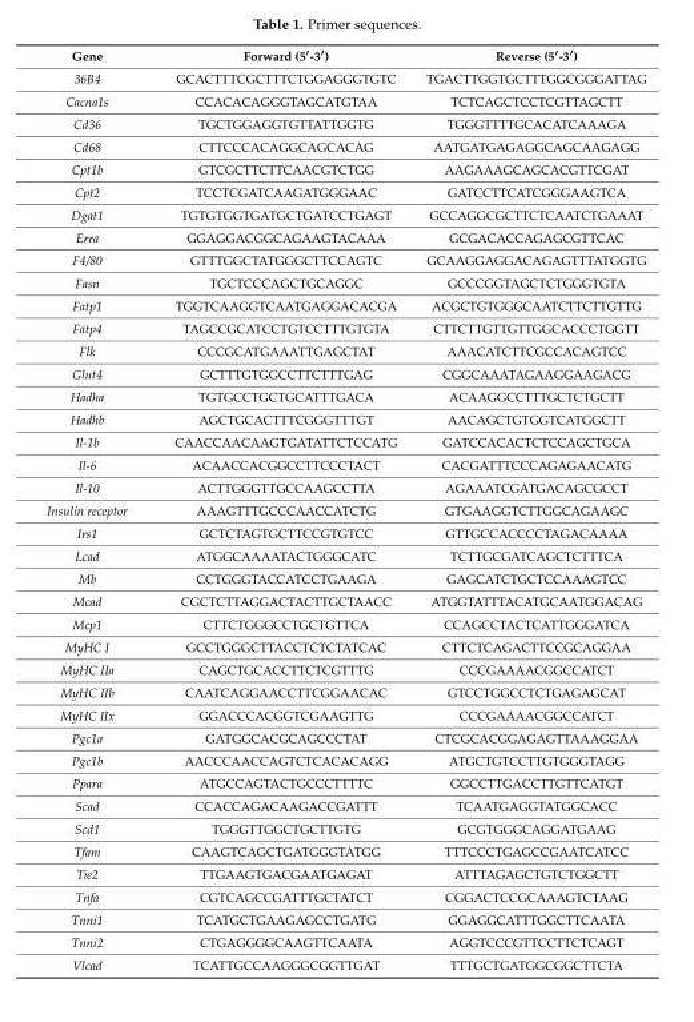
<table><thead><tr><td>Gene</td><td>Forward (5′-3′)</td><td>Reverse (5′-3′)</td></tr></thead><tbody><tr><td>36B4</td><td>GCACTTTCGCTTTCTGGAGGGTGTC</td><td>TGACTTGGTGCTTTGGCGGGATTAG</td></tr><tr><td>Cacna1s</td><td>CCACACAGGGTAGCATGTAA</td><td>TCTCAGCTCCTCGTTAGCTT</td></tr><tr><td>Cd36</td><td>TGCTGGAGGTGTTATTGGTG</td><td>TGGGTTTTGCACATCAAAGA</td></tr><tr><td>Cd68</td><td>CTTCCCACAGGCAGCACAG</td><td>AATGATGAGAGGCAGCAAGAGG</td></tr><tr><td>Cpt1b</td><td>GTCGCTTCTTCAACGTCTGG</td><td>AAGAAAGCAGCACGTTCGAT</td></tr><tr><td>Cpt2</td><td>TCCTCGATCAAGATGGGAAC</td><td>GATCCTTCATCGGGAAGTCA</td></tr><tr><td>Dgat1</td><td>TGTGTGGTGATGCTGATCCTGAGT</td><td>GCCAGGCGCTTCTCAATCTGAAAT</td></tr><tr><td>Erra</td><td>GGAGGACGGCAGAAGTACAAA</td><td>GCGACACCAGAGCGTTCAC</td></tr><tr><td>F4/80</td><td>GTTTGGCTATGGGCTTCCAGTC</td><td>GCAAGGAGGACAGAGTTTATGGTG</td></tr><tr><td>Fasn</td><td>TGCTCCCAGCTGCAGGC</td><td>GCCCGGTAGCTCTGGGTGTA</td></tr><tr><td>Fatp1</td><td>TGGTCAAGGTCAATGAGGACACGA</td><td>ACGCTGTGGGCAATCTTCTTGTTG</td></tr><tr><td>Fatp4</td><td>TAGCCGCATCCTGTCCTTTGTGTA</td><td>CTTCTTGTTGTTGGCACCCTGGTT</td></tr><tr><td>Flk</td><td>CCCGCATGAAATTGAGCTAT</td><td>AAACATCTTCGCCACAGTCC</td></tr><tr><td>Glut4</td><td>GCTTTGTGGCCTTCTTTGAG</td><td>CGGCAAATAGAAGGAAGACG</td></tr><tr><td>Hadha</td><td>TGTGCCTGCTGCATTTGACA</td><td>ACAAGGCCTTTGCTCTGCTT</td></tr><tr><td>Hadhb</td><td>AGCTGCACTTTCGGGTTTGT</td><td>AACAGCTGTGGTCATGGCTT</td></tr><tr><td>Il-1b</td><td>CAACCAACAAGTGATATTCTCCATG</td><td>GATCCACACTCTCCAGCTGCA</td></tr><tr><td>Il-6</td><td>ACAACCACGGCCTTCCCTACT</td><td>CACGATTTCCCAGAGAACATG</td></tr><tr><td>Il-10</td><td>ACTTGGGTTGCCAAGCCTTA</td><td>AGAAATCGATGACAGCGCCT</td></tr><tr><td>Insulin receptor</td><td>AAAGTTTGCCCAACCATCTG</td><td>GTGAAGGTCTTGGCAGAAGC</td></tr><tr><td>Irs1</td><td>GCTCTAGTGCTTCCGTGTCC</td><td>GTTGCCACCCCTAGACAAAA</td></tr><tr><td>Lcad</td><td>ATGGCAAAATACTGGGCATC</td><td>TCTTGCGATCAGCTCTTTCA</td></tr><tr><td>Mb</td><td>CCTGGGTACCATCCTGAAGA</td><td>GAGCATCTGCTCCAAAGTCC</td></tr><tr><td>Mcad</td><td>CGCTCTTAGGACTACTTGCTAACC</td><td>ATGGTATTTACATGCAATGGACAG</td></tr><tr><td>Mcp1</td><td>CTTCTGGGCCTGCTGTTCA</td><td>CCAGCCTACTCATTGGGATCA</td></tr><tr><td>MyHC I</td><td>GCCTGGGCTTACCTCTCTATCAC</td><td>CTTCTCAGACTTCCGCAGGAA</td></tr><tr><td>MyHC IIa</td><td>CAGCTGCACCTTCTCGTTTG</td><td>CCCGAAAACGGCCATCT</td></tr><tr><td>MyHC IIb</td><td>CAATCAGGAACCTTCGGAACAC</td><td>GTCCTGGCCTCTGAGAGCAT</td></tr><tr><td>MyHC IIx</td><td>GGACCCACGGTCGAAGTTG</td><td>CCCGAAAACGGCCATCT</td></tr><tr><td>Pgc1a</td><td>GATGGCACGCAGCCCTAT</td><td>CTCGCACGGAGAGTTAAAGGAA</td></tr><tr><td>Pgc1b</td><td>AACCCAACCAGTCTCACACAGG</td><td>ATGCTGTCCTTGTGGGTAGG</td></tr><tr><td>Ppara</td><td>ATGCCAGTACTGCCCTTTTC</td><td>GGCCTTGACCTTGTTCATGT</td></tr><tr><td>Scad</td><td>CCACCAGACAAGACCGATTT</td><td>TCAATGAGGTATGGCACC</td></tr><tr><td>Scd1</td><td>TGGGTTGGCTGCTTGTG</td><td>GCGTGGGCAGGATGAAG</td></tr><tr><td>Tfam</td><td>CAAGTCAGCTGATGGGTATGG</td><td>TTTCCCTGAGCCGAATCATCC</td></tr><tr><td>Tie2</td><td>TTGAAGTGACGAATGAGAT</td><td>ATTTAGAGCTGTCTGGCTT</td></tr><tr><td>Tnfa</td><td>CGTCAGCCGATTTGCTATCT</td><td>CGGACTCCGCAAAGTCTAAG</td></tr><tr><td>Tnni1</td><td>TCATGCTGAAGAGCCTGATG</td><td>GGAGGCATTTGGCTTCAATA</td></tr><tr><td>Tnni2</td><td>CTGAGGGGCAAGTTCAATA</td><td>AGGTCCCGTTCCTTCTCAGT</td></tr><tr><td>Vlcad</td><td>TCATTGCCAAGGGCGGTTGAT</td><td>TTTGCTGATGGCGGCTTCTA</td></tr></tbody></table>